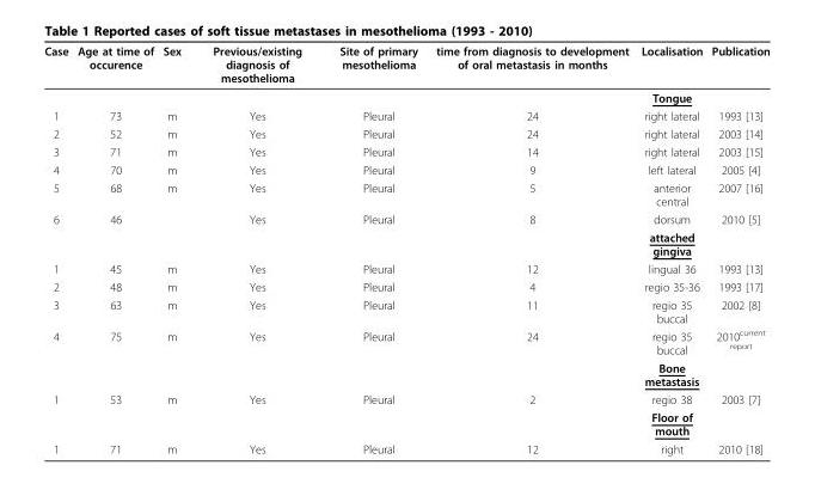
<table><thead><tr><td>Case</td><td>Age at time of occurence</td><td>Sex</td><td>Previous/existing diagnosis of mesothelioma</td><td>Site of primary mesothelioma</td><td>time from diagnosis to development of oral metastasis in months</td><td>Localisation</td><td>Publication</td></tr></thead><tbody><tr><td></td><td></td><td></td><td></td><td></td><td></td><td>Tongue</td><td></td></tr><tr><td>1</td><td>73</td><td>m</td><td>Yes</td><td>Pleural</td><td>24</td><td>right lateral</td><td>1993 [13]</td></tr><tr><td>2</td><td>52</td><td>m</td><td>Yes</td><td>Pleural</td><td>24</td><td>right lateral</td><td>2003 [14]</td></tr><tr><td>3</td><td>71</td><td>m</td><td>Yes</td><td>Pleural</td><td>14</td><td>right lateral</td><td>2003 [15]</td></tr><tr><td>4</td><td>70</td><td>m</td><td>Yes</td><td>Pleural</td><td>9</td><td>left lateral</td><td>2005 [4]</td></tr><tr><td>5</td><td>68</td><td>m</td><td>Yes</td><td>Pleural</td><td>5</td><td>anterior central</td><td>2007 [16]</td></tr><tr><td rowspan="2">6</td><td>46</td><td></td><td>Yes</td><td>Pleural</td><td>8</td><td>dorsum</td><td>2010 [5]</td></tr><tr><td></td><td></td><td></td><td></td><td></td><td>attached gingiva</td><td></td></tr><tr><td>1</td><td>45</td><td>m</td><td>Yes</td><td>Pleural</td><td>12</td><td>lingual 36</td><td>1993 [13]</td></tr><tr><td>2</td><td>48</td><td>m</td><td>Yes</td><td>Pleural</td><td>4</td><td>regio 35-36</td><td>1993 [17]</td></tr><tr><td>3</td><td>63</td><td>m</td><td>Yes</td><td>Pleural</td><td>11</td><td>regio 35 buccal</td><td>2002 [8]</td></tr><tr><td rowspan="2">4</td><td>75</td><td>m</td><td>Yes</td><td>Pleural</td><td>24</td><td>regio 35 buccal</td><td>2010<sup>current report</sup></td></tr><tr><td></td><td></td><td></td><td></td><td></td><td>Bone metastasis</td><td></td></tr><tr><td rowspan="2">1</td><td>53</td><td>m</td><td>Yes</td><td>Pleural</td><td>2</td><td>regio 38</td><td>2003 [7]</td></tr><tr><td></td><td></td><td></td><td></td><td></td><td>Floor of mouth</td><td></td></tr><tr><td>1</td><td>71</td><td>m</td><td>Yes</td><td>Pleural</td><td>12</td><td>right</td><td>2010 [18]</td></tr></tbody></table>